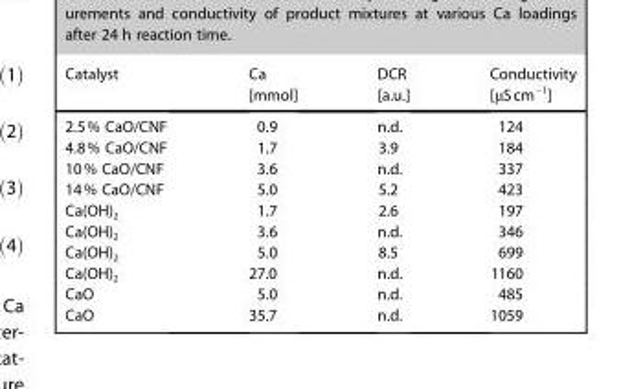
<table><thead><tr><td>Catalyst</td><td>Ca [mmol]</td><td>DCR [a.u.]</td><td>Conductivity [μScm<sup>−1</sup>]</td></tr></thead><tbody><tr><td>2.5% CaO/CNF</td><td>0.9</td><td>n.d.</td><td>124</td></tr><tr><td>4.8% CaO/CNF</td><td>1.7</td><td>3.9</td><td>184</td></tr><tr><td>10% CaO/CNF</td><td>3.6</td><td>n.d.</td><td>337</td></tr><tr><td>14% CaO/CNF</td><td>5.0</td><td>5.2</td><td>423</td></tr><tr><td>Ca(OH)<sub>2</sub></td><td>1.7</td><td>2.6</td><td>197</td></tr><tr><td>Ca(OH)<sub>2</sub></td><td>3.6</td><td>n.d.</td><td>346</td></tr><tr><td>Ca(OH)<sub>2</sub></td><td>5.0</td><td>8.5</td><td>699</td></tr><tr><td>Ca(OH)<sub>2</sub></td><td>27.0</td><td>n.d.</td><td>1160</td></tr><tr><td>CaO</td><td>5.0</td><td>n.d.</td><td>485</td></tr><tr><td>CaO</td><td>35.7</td><td>n.d.</td><td>1059</td></tr></tbody></table>